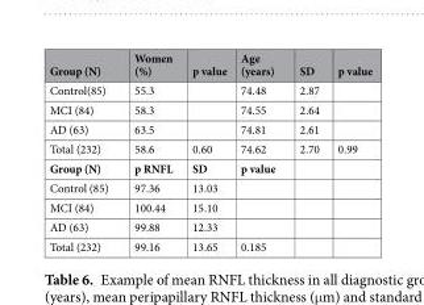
<table><thead><tr><td>Group (N)</td><td>Women (%)</td><td>p value</td><td>Age (years)</td><td>SD</td><td>p value</td></tr></thead><tbody><tr><td>Control(85)</td><td>55.3</td><td></td><td>74.48</td><td>2.87</td><td></td></tr><tr><td>MCI (84)</td><td>58.3</td><td></td><td>74.55</td><td>2.64</td><td></td></tr><tr><td>AD (63)</td><td>63.5</td><td></td><td>74.81</td><td>2.61</td><td></td></tr><tr><td>Total (232)</td><td>58.6</td><td>0.60</td><td>74.62</td><td>2.70</td><td>0.99</td></tr><tr><td>Group (N)</td><td>p RNFL</td><td>SD</td><td>p value</td><td></td><td></td></tr><tr><td>Control (85)</td><td>97.36</td><td>13.03</td><td></td><td></td><td></td></tr><tr><td>MCI (84)</td><td>100.44</td><td>15.10</td><td></td><td></td><td></td></tr><tr><td>AD (63)</td><td>99.88</td><td>12.33</td><td></td><td></td><td></td></tr><tr><td>Total (232)</td><td>99.16</td><td>13.65</td><td>0.185</td><td></td><td></td></tr></tbody></table>